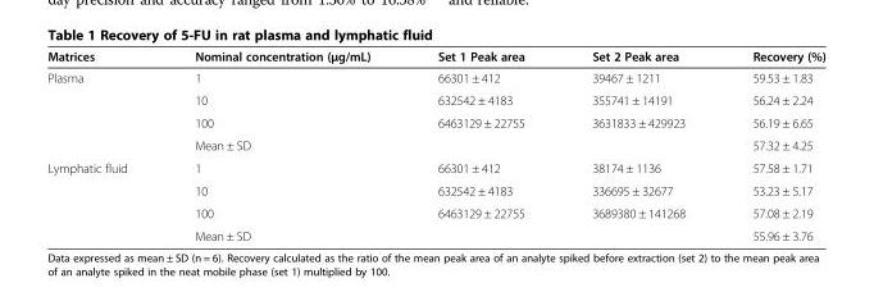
<table><thead><tr><td>Matrices</td><td>Nominal concentration (μg/mL)</td><td>Set 1 Peak area</td><td>Set 2 Peak area</td><td>Recovery (%)</td></tr></thead><tbody><tr><td rowspan="4">Plasma</td><td>1</td><td>66301 ± 412</td><td>39467 ± 1211</td><td>59.53 ± 1.83</td></tr><tr><td>10</td><td>632542 ± 4183</td><td>355741 ± 14191</td><td>56.24 ± 2.24</td></tr><tr><td>100</td><td>6463129 ± 22755</td><td>3631833 ± 429923</td><td>56.19 ± 6.65</td></tr><tr><td>Mean ± SD</td><td></td><td></td><td>57.32 ± 4.25</td></tr><tr><td rowspan="4">Lymphatic fluid</td><td>1</td><td>66301 ± 412</td><td>38174 ± 1136</td><td>57.58 ± 1.71</td></tr><tr><td>10</td><td>632542 ± 4183</td><td>336695 ± 32677</td><td>53.23 ± 5.17</td></tr><tr><td>100</td><td>6463129 ± 22755</td><td>3689380 ± 141268</td><td>57.08 ± 2.19</td></tr><tr><td>Mean ± SD</td><td></td><td></td><td>55.96 ± 3.76</td></tr></tbody></table>